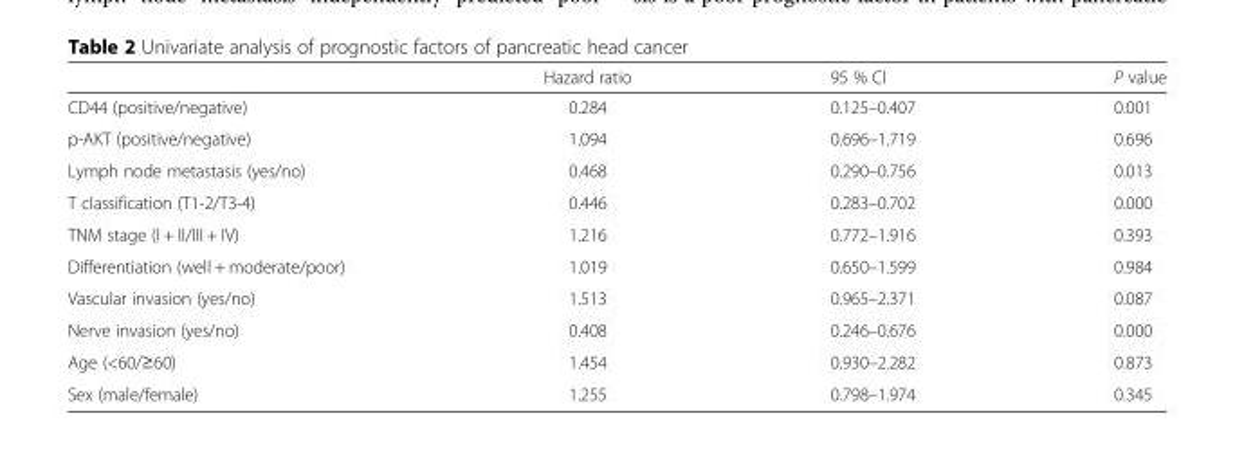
<table><thead><tr><td></td><td>Hazard ratio</td><td>95 % CI</td><td>P value</td></tr></thead><tbody><tr><td>CD44 (positive/negative)</td><td>0.284</td><td>0.125–0.407</td><td>0.001</td></tr><tr><td>p-AKT (positive/negative)</td><td>1.094</td><td>0.696–1.719</td><td>0.696</td></tr><tr><td>Lymph node metastasis (yes/no)</td><td>0.468</td><td>0.290–0.756</td><td>0.013</td></tr><tr><td>T classification (T1-2/T3-4)</td><td>0.446</td><td>0.283–0.702</td><td>0.000</td></tr><tr><td>TNM stage (I + II/III + IV)</td><td>1.216</td><td>0.772–1.916</td><td>0.393</td></tr><tr><td>Differentiation (well + moderate/poor)</td><td>1.019</td><td>0.650–1.599</td><td>0.984</td></tr><tr><td>Vascular invasion (yes/no)</td><td>1.513</td><td>0.965–2.371</td><td>0.087</td></tr><tr><td>Nerve invasion (yes/no)</td><td>0.408</td><td>0.246–0.676</td><td>0.000</td></tr><tr><td>Age (&lt;60/≥60)</td><td>1.454</td><td>0.930–2.282</td><td>0.873</td></tr><tr><td>Sex (male/female)</td><td>1.255</td><td>0.798–1.974</td><td>0.345</td></tr></tbody></table>